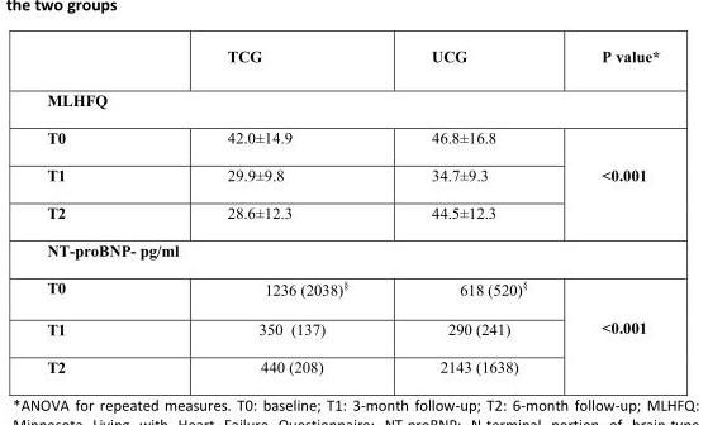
<table><thead><tr><td></td><td>TCG</td><td>UCG</td><td>P value*</td></tr></thead><tbody><tr><td colspan="4">MLHFQ</td></tr><tr><td>T0</td><td>42.0±14.9</td><td>46.8±16.8</td><td rowspan="3">&lt;0.001</td></tr><tr><td>T1</td><td>29.9±9.8</td><td>34.7±9.3</td></tr><tr><td>T2</td><td>28.6±12.3</td><td>44.5±12.3</td></tr><tr><td colspan="4">NT-proBNP- pg/ml</td></tr><tr><td>T0</td><td>1236 (2038)<sup>§</sup></td><td>618 (520)<sup>§</sup></td><td rowspan="3">&lt;0.001</td></tr><tr><td>T1</td><td>350 (137)</td><td>290 (241)</td></tr><tr><td>T2</td><td>440 (208)</td><td>2143 (1638)</td></tr></tbody></table>